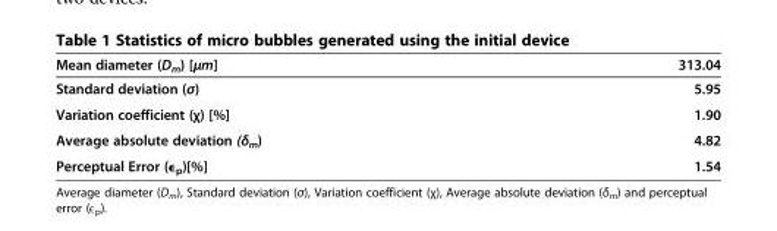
<table><thead><tr><td>Mean diameter (D<sub>m</sub>) [μm]</td><td>313.04</td></tr></thead><tbody><tr><td>Standard deviation (σ)</td><td>5.95</td></tr><tr><td>Variation coefficient (χ) [%]</td><td>1.90</td></tr><tr><td>Average absolute deviation (δ<sub>m</sub>)</td><td>4.82</td></tr><tr><td>Perceptual Error (ε<sub>p</sub>)[%]</td><td>1.54</td></tr></tbody></table>